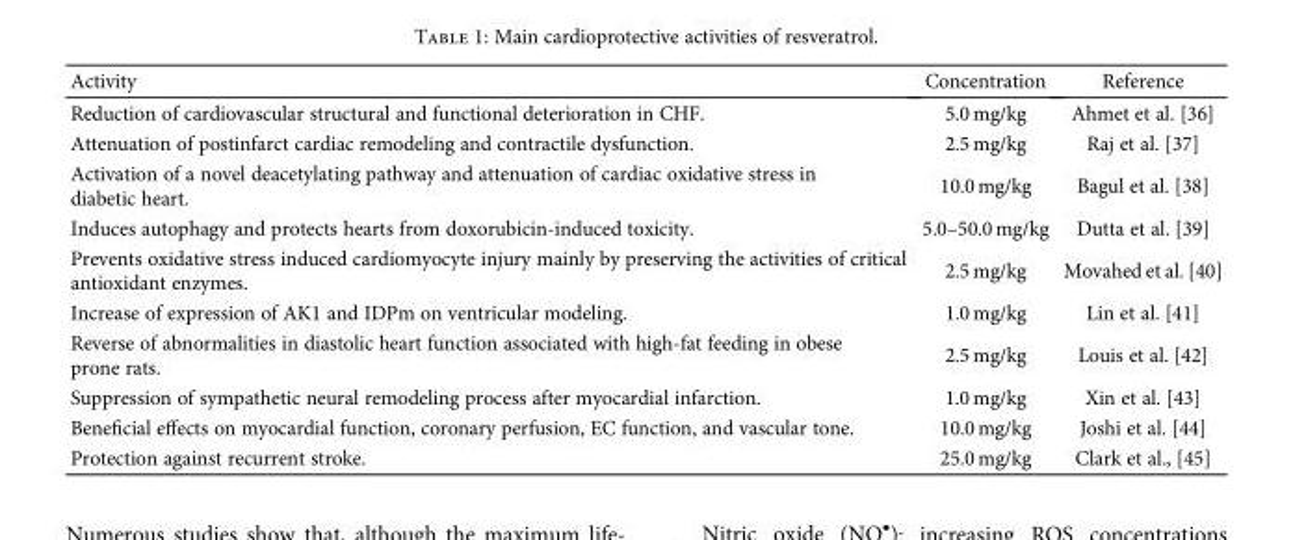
<table><thead><tr><td>Activity</td><td>Concentration</td><td>Reference</td></tr></thead><tbody><tr><td>Reduction of cardiovascular structural and functional deterioration in CHF.</td><td>5.0 mg/kg</td><td>Ahmet et al. [36]</td></tr><tr><td>Attenuation of postinfarct cardiac remodeling and contractile dysfunction.</td><td>2.5 mg/kg</td><td>Raj et al. [37]</td></tr><tr><td>Activation of a novel deacetylating pathway and attenuation of cardiac oxidative stress in diabetic heart.</td><td>10.0 mg/kg</td><td>Bagul et al. [38]</td></tr><tr><td>Induces autophagy and protects hearts from doxorubicin-induced toxicity.</td><td>5.0–50.0 mg/kg</td><td>Dutta et al. [39]</td></tr><tr><td>Prevents oxidative stress induced cardiomyocyte injury mainly by preserving the activities of critical antioxidant enzymes.</td><td>2.5 mg/kg</td><td>Movahed et al. [40]</td></tr><tr><td>Increase of expression of AK1 and IDPm on ventricular modeling.</td><td>1.0 mg/kg</td><td>Lin et al. [41]</td></tr><tr><td>Reverse of abnormalities in diastolic heart function associated with high-fat feeding in obese prone rats.</td><td>2.5 mg/kg</td><td>Louis et al. [42]</td></tr><tr><td>Suppression of sympathetic neural remodeling process after myocardial infarction.</td><td>1.0 mg/kg</td><td>Xin et al. [43]</td></tr><tr><td>Beneficial effects on myocardial function, coronary perfusion, EC function, and vascular tone.</td><td>10.0 mg/kg</td><td>Joshi et al. [44]</td></tr><tr><td>Protection against recurrent stroke.</td><td>25.0 mg/kg</td><td>Clark et al., [45]</td></tr></tbody></table>